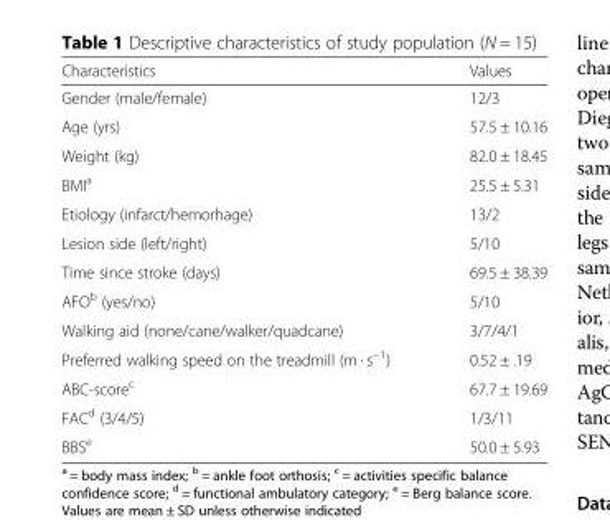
<table><thead><tr><td>Characteristics</td><td>Values</td></tr></thead><tbody><tr><td>Gender (male/female)</td><td>12/3</td></tr><tr><td>Age (yrs)</td><td>57.5 ± 10.16</td></tr><tr><td>Weight (kg)</td><td>82.0 ± 18.45</td></tr><tr><td>BMI<sup>a</sup></td><td>25.5 ± 5.31</td></tr><tr><td>Etiology (infarct/hemorhage)</td><td>13/2</td></tr><tr><td>Lesion side (left/right)</td><td>5/10</td></tr><tr><td>Time since stroke (days)</td><td>69.5 ± 38.39</td></tr><tr><td>AFO<sup>b</sup> (yes/no)</td><td>5/10</td></tr><tr><td>Walking aid (none/cane/walker/quadcane)</td><td>3/7/4/1</td></tr><tr><td>Preferred walking speed on the treadmill (m · s<sup>−1</sup>)</td><td>0.52 ± .19</td></tr><tr><td>ABC-score<sup>c</sup></td><td>67.7 ± 19.69</td></tr><tr><td>FAC<sup>d</sup> (3/4/5)</td><td>1/3/11</td></tr><tr><td>BBS<sup>e</sup></td><td>50.0 ± 5.93</td></tr></tbody></table>